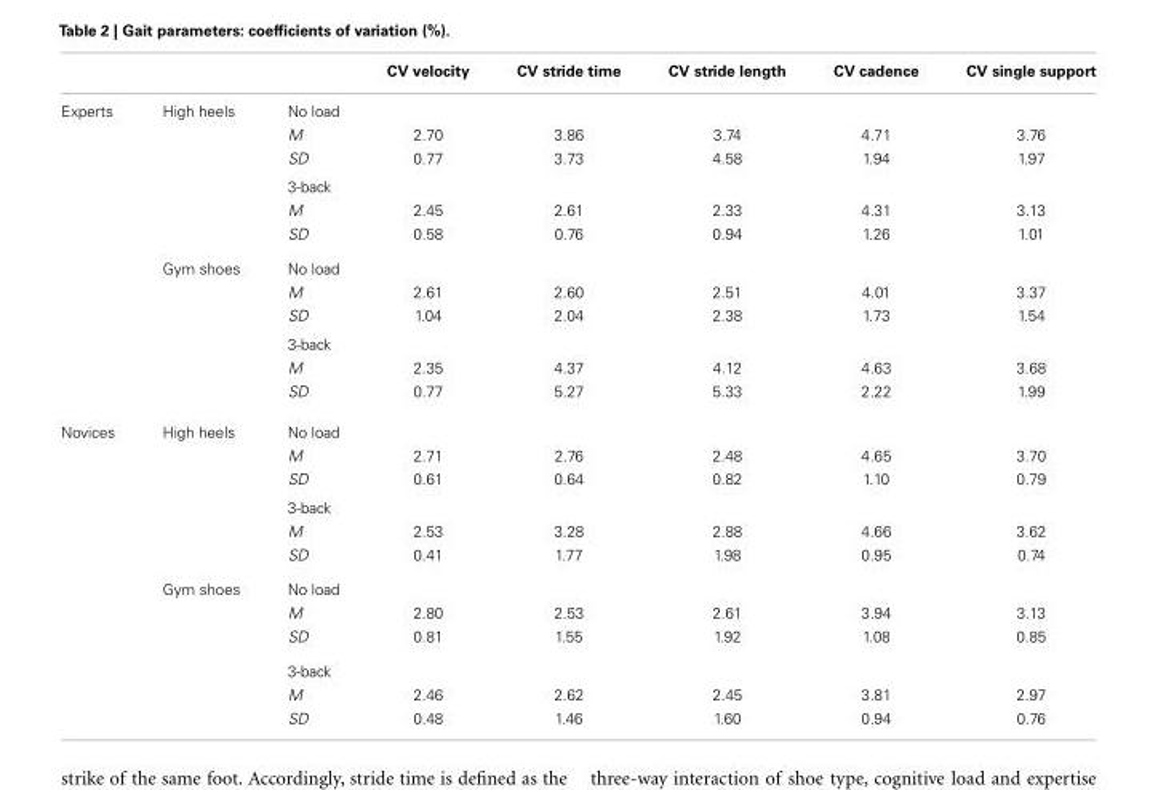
<table><thead><tr><td></td><td></td><td></td><td>CV velocity</td><td>CV stride time</td><td>CV stride length</td><td>CV cadence</td><td>CV single support</td></tr></thead><tbody><tr><td rowspan="12">Experts</td><td>High heels</td><td>No load</td><td></td><td></td><td></td><td></td><td></td></tr><tr><td></td><td>M</td><td>2.70</td><td>3.86</td><td>3.74</td><td>4.71</td><td>3.76</td></tr><tr><td></td><td>SD</td><td>0.77</td><td>3.73</td><td>4.58</td><td>1.94</td><td>1.97</td></tr><tr><td></td><td>3-back</td><td></td><td></td><td></td><td></td><td></td></tr><tr><td></td><td>M</td><td>2.45</td><td>2.61</td><td>2.33</td><td>4.31</td><td>3.13</td></tr><tr><td></td><td>SD</td><td>0.58</td><td>0.76</td><td>0.94</td><td>1.26</td><td>1.01</td></tr><tr><td>Gym shoes</td><td>No load</td><td></td><td></td><td></td><td></td><td></td></tr><tr><td></td><td>M</td><td>2.61</td><td>2.60</td><td>2.51</td><td>4.01</td><td>3.37</td></tr><tr><td></td><td>SD</td><td>1.04</td><td>2.04</td><td>2.38</td><td>1.73</td><td>1.54</td></tr><tr><td></td><td>3-back</td><td></td><td></td><td></td><td></td><td></td></tr><tr><td></td><td>M</td><td>2.35</td><td>4.37</td><td>4.12</td><td>4.63</td><td>3.68</td></tr><tr><td></td><td>SD</td><td>0.77</td><td>5.27</td><td>5.33</td><td>2.22</td><td>1.99</td></tr><tr><td rowspan="12">Novices</td><td>High heels</td><td>No load</td><td></td><td></td><td></td><td></td><td></td></tr><tr><td></td><td>M</td><td>2.71</td><td>2.76</td><td>2.48</td><td>4.65</td><td>3.70</td></tr><tr><td></td><td>SD</td><td>0.61</td><td>0.64</td><td>0.82</td><td>1.10</td><td>0.79</td></tr><tr><td></td><td>3-back</td><td></td><td></td><td></td><td></td><td></td></tr><tr><td></td><td>M</td><td>2.53</td><td>3.28</td><td>2.88</td><td>4.66</td><td>3.62</td></tr><tr><td></td><td>SD</td><td>0.41</td><td>1.77</td><td>1.98</td><td>0.95</td><td>0.74</td></tr><tr><td>Gym shoes</td><td>No load</td><td></td><td></td><td></td><td></td><td></td></tr><tr><td></td><td>M</td><td>2.80</td><td>2.53</td><td>2.61</td><td>3.94</td><td>3.13</td></tr><tr><td></td><td>SD</td><td>0.81</td><td>1.55</td><td>1.92</td><td>1.08</td><td>0.85</td></tr><tr><td></td><td>3-back</td><td></td><td></td><td></td><td></td><td></td></tr><tr><td></td><td>M</td><td>2.46</td><td>2.62</td><td>2.45</td><td>3.81</td><td>2.97</td></tr><tr><td></td><td>SD</td><td>0.48</td><td>1.46</td><td>1.60</td><td>0.94</td><td>0.76</td></tr></tbody></table>